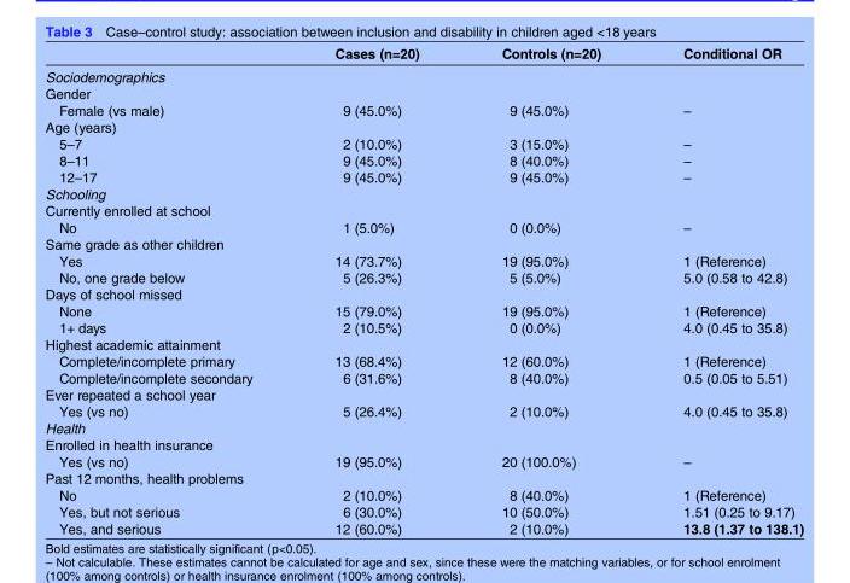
<table><thead><tr><td></td><td>Cases (n=20)</td><td>Controls (n=20)</td><td>Conditional OR</td></tr></thead><tbody><tr><td colspan="4">Sociodemographics</td></tr><tr><td colspan="4">Gender</td></tr><tr><td>Female (vs male)</td><td>9 (45.0%)</td><td>9 (45.0%)</td><td>–</td></tr><tr><td colspan="4">Age (years)</td></tr><tr><td>5–7</td><td>2 (10.0%)</td><td>3 (15.0%)</td><td>–</td></tr><tr><td>8–11</td><td>9 (45.0%)</td><td>8 (40.0%)</td><td>–</td></tr><tr><td>12–17</td><td>9 (45.0%)</td><td>9 (45.0%)</td><td>–</td></tr><tr><td colspan="4">Schooling</td></tr><tr><td colspan="4">Currently enrolled at school</td></tr><tr><td>No</td><td>1 (5.0%)</td><td>0 (0.0%)</td><td>–</td></tr><tr><td colspan="4">Same grade as other children</td></tr><tr><td>Yes</td><td>14 (73.7%)</td><td>19 (95.0%)</td><td>1 (Reference)</td></tr><tr><td>No, one grade below</td><td>5 (26.3%)</td><td>5 (5.0%)</td><td>5.0 (0.58 to 42.8)</td></tr><tr><td colspan="4">Days of school missed</td></tr><tr><td>None</td><td>15 (79.0%)</td><td>19 (95.0%)</td><td>1 (Reference)</td></tr><tr><td>1+ days</td><td>2 (10.5%)</td><td>0 (0.0%)</td><td>4.0 (0.45 to 35.8)</td></tr><tr><td colspan="4">Highest academic attainment</td></tr><tr><td>Complete/incomplete primary</td><td>13 (68.4%)</td><td>12 (60.0%)</td><td>1 (Reference)</td></tr><tr><td>Complete/incomplete secondary</td><td>6 (31.6%)</td><td>8 (40.0%)</td><td>0.5 (0.05 to 5.51)</td></tr><tr><td colspan="4">Ever repeated a school year</td></tr><tr><td>Yes (vs no)</td><td>5 (26.4%)</td><td>2 (10.0%)</td><td>4.0 (0.45 to 35.8)</td></tr><tr><td colspan="4">Health</td></tr><tr><td colspan="4">Enrolled in health insurance</td></tr><tr><td>Yes (vs no)</td><td>19 (95.0%)</td><td>20 (100.0%)</td><td>–</td></tr><tr><td colspan="4">Past 12 months, health problems</td></tr><tr><td>No</td><td>2 (10.0%)</td><td>8 (40.0%)</td><td>1 (Reference)</td></tr><tr><td>Yes, but not serious</td><td>6 (30.0%)</td><td>10 (50.0%)</td><td>1.51 (0.25 to 9.17)</td></tr><tr><td>Yes, and serious</td><td>12 (60.0%)</td><td>2 (10.0%)</td><td>13.8 (1.37 to 138.1)</td></tr></tbody></table>